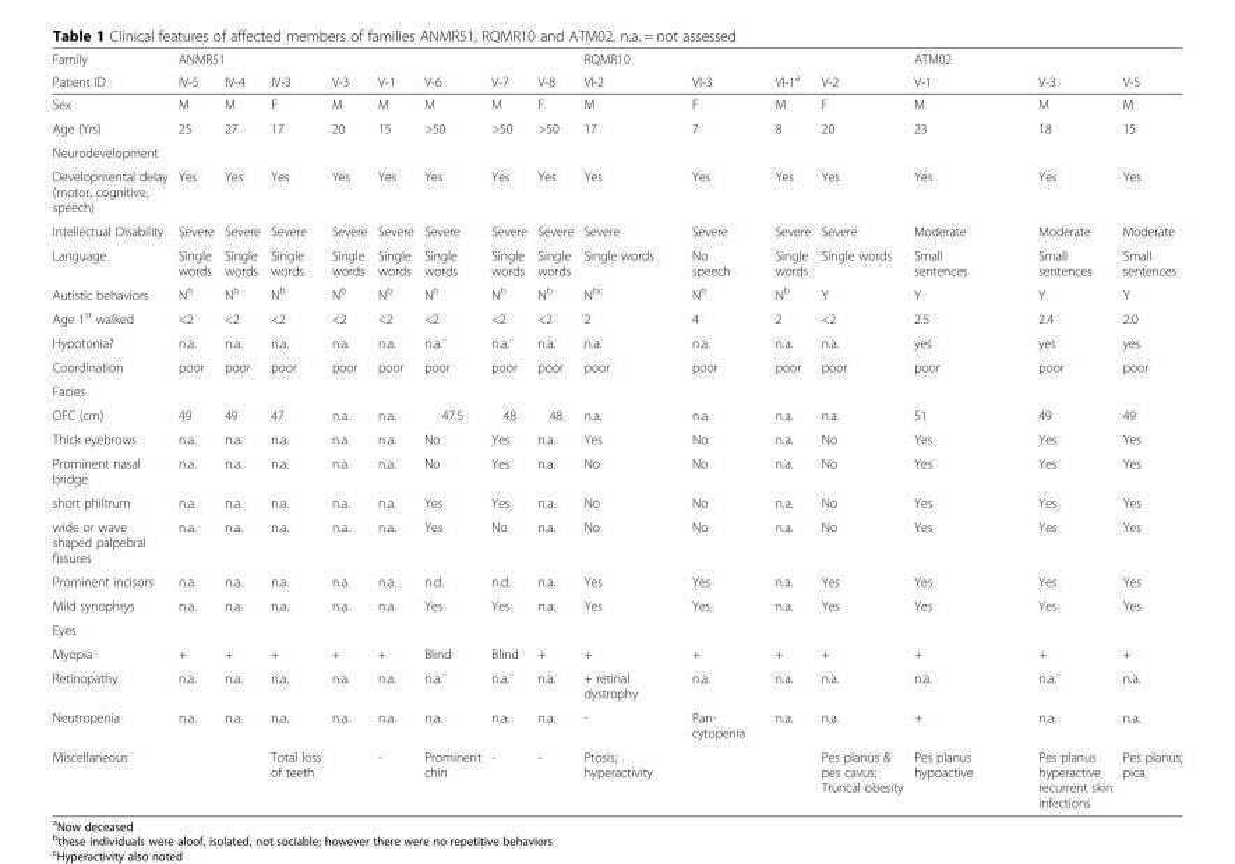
<table><thead><tr><td rowspan="2">Family Patient ID</td><td colspan="8">ANMR51</td><td colspan="4">RQMR10</td><td colspan="3">ATM02</td></tr><tr><td>IV-5</td><td>IV-4</td><td>IV-3</td><td>V-3</td><td>V-1</td><td>V-6</td><td>V-7</td><td>V-8</td><td>VI-2</td><td>VI-3</td><td>VI-1<sup>a</sup></td><td>V-2</td><td>V-1</td><td>V-3</td><td>V-5</td></tr></thead><tbody><tr><td>Sex</td><td>M</td><td>M</td><td>F</td><td>M</td><td>M</td><td>M</td><td>M</td><td>F</td><td>M</td><td>F</td><td>M</td><td>F</td><td>M</td><td>M</td><td>M</td></tr><tr><td>Age (Yrs)</td><td>25</td><td>27</td><td>17</td><td>20</td><td>15</td><td>&gt;50</td><td>&gt;50</td><td>&gt;50</td><td>17</td><td>7</td><td>8</td><td>20</td><td>23</td><td>18</td><td>15</td></tr><tr><td colspan="16">Neurodevelopment</td></tr><tr><td>Developmental delay (motor, cognitive, speech)</td><td>Yes</td><td>Yes</td><td>Yes</td><td>Yes</td><td>Yes</td><td>Yes</td><td>Yes</td><td>Yes</td><td>Yes</td><td>Yes</td><td>Yes</td><td>Yes</td><td>Yes</td><td>Yes</td><td>Yes</td></tr><tr><td>Intellectual Disability</td><td>Severe</td><td>Severe</td><td>Severe</td><td>Severe</td><td>Severe</td><td>Severe</td><td>Severe</td><td>Severe</td><td>Severe</td><td>Severe</td><td>Severe</td><td>Severe</td><td>Moderate</td><td>Moderate</td><td>Moderate</td></tr><tr><td>Language</td><td>Single words</td><td>Single words</td><td>Single words</td><td>Single words</td><td>Single words</td><td>Single words</td><td>Single words</td><td>Single words</td><td>Single words</td><td>No speech</td><td>Single words</td><td>Single words</td><td>Small sentences</td><td>Small sentences</td><td>Small sentences</td></tr><tr><td>Autistic behaviors</td><td>N<sup>b</sup></td><td>N<sup>b</sup></td><td>N<sup>b</sup></td><td>N<sup>b</sup></td><td>N<sup>b</sup></td><td>N<sup>b</sup></td><td>N<sup>b</sup></td><td>N<sup>b</sup></td><td>N<sup>bc</sup></td><td>N<sup>b</sup></td><td>N<sup>b</sup></td><td>Y</td><td>Y</td><td>Y</td><td>Y</td></tr><tr><td>Age 1<sup>st</sup> walked</td><td>&lt;2</td><td>&lt;2</td><td>&lt;2</td><td>&lt;2</td><td>&lt;2</td><td>&lt;2</td><td>&lt;2</td><td>&lt;2</td><td>2</td><td>4</td><td>2</td><td>&lt;2</td><td>2.5</td><td>2.4</td><td>2.0</td></tr><tr><td>Hypotonia?</td><td>n.a.</td><td>n.a.</td><td>n.a.</td><td>n.a.</td><td>n.a.</td><td>n.a.</td><td>n.a.</td><td>n.a.</td><td>n.a.</td><td>n.a.</td><td>n.a.</td><td>n.a.</td><td>yes</td><td>yes</td><td>yes</td></tr><tr><td>Coordination</td><td>poor</td><td>poor</td><td>poor</td><td>poor</td><td>poor</td><td>poor</td><td>poor</td><td>poor</td><td>poor</td><td>poor</td><td>poor</td><td>poor</td><td>poor</td><td>poor</td><td>poor</td></tr><tr><td colspan="16">Facies</td></tr><tr><td>OFC (cm)</td><td>49</td><td>49</td><td>47</td><td>n.a.</td><td>n.a.</td><td>47.5</td><td>48</td><td>48</td><td>n.a.</td><td>n.a.</td><td>n.a.</td><td>n.a.</td><td>51</td><td>49</td><td>49</td></tr><tr><td>Thick eyebrows</td><td>n.a.</td><td>n.a.</td><td>n.a.</td><td>n.a.</td><td>n.a.</td><td>No</td><td>Yes</td><td>n.a.</td><td>Yes</td><td>No</td><td>n.a.</td><td>No</td><td>Yes</td><td>Yes</td><td>Yes</td></tr><tr><td>Prominent nasal bridge</td><td>n.a.</td><td>n.a.</td><td>n.a.</td><td>n.a.</td><td>n.a.</td><td>No</td><td>Yes</td><td>n.a.</td><td>No</td><td>No</td><td>n.a.</td><td>No</td><td>Yes</td><td>Yes</td><td>Yes</td></tr><tr><td>short philtrum</td><td>n.a.</td><td>n.a.</td><td>n.a.</td><td>n.a.</td><td>n.a.</td><td>Yes</td><td>Yes</td><td>n.a.</td><td>No</td><td>No</td><td>n.a.</td><td>No</td><td>Yes</td><td>Yes</td><td>Yes</td></tr><tr><td>wide or wave shaped palpebral fissures</td><td>n.a.</td><td>n.a.</td><td>n.a.</td><td>n.a.</td><td>n.a.</td><td>Yes</td><td>No</td><td>n.a.</td><td>No</td><td>No</td><td>n.a.</td><td>No</td><td>Yes</td><td>Yes</td><td>Yes</td></tr><tr><td>Prominent incisors</td><td>n.a.</td><td>n.a.</td><td>n.a.</td><td>n.a.</td><td>n.a.</td><td>n.d.</td><td>n.d.</td><td>n.a.</td><td>Yes</td><td>Yes</td><td>n.a.</td><td>Yes</td><td>Yes</td><td>Yes</td><td>Yes</td></tr><tr><td>Mild synophrys</td><td>n.a.</td><td>n.a.</td><td>n.a.</td><td>n.a.</td><td>n.a.</td><td>Yes</td><td>Yes</td><td>n.a.</td><td>Yes</td><td>Yes</td><td>n.a.</td><td>Yes</td><td>Yes</td><td>Yes</td><td>Yes</td></tr><tr><td colspan="16">Eyes</td></tr><tr><td>Myopia</td><td>+</td><td>+</td><td>+</td><td>+</td><td>+</td><td>Blind</td><td>Blind</td><td>+</td><td>+</td><td>+</td><td>+</td><td>+</td><td>+</td><td>+</td><td>+</td></tr><tr><td>Retinopathy</td><td>n.a.</td><td>n.a.</td><td>n.a.</td><td>n.a.</td><td>n.a.</td><td>n.a.</td><td>n.a.</td><td>n.a.</td><td>+ retinal dystrophy</td><td>n.a.</td><td>n.a.</td><td>n.a.</td><td>n.a.</td><td>n.a.</td><td>n.a.</td></tr><tr><td>Neutropenia</td><td>n.a.</td><td>n.a.</td><td>n.a.</td><td>n.a.</td><td>n.a.</td><td>n.a.</td><td>n.a.</td><td>n.a.</td><td>-</td><td>Pan- cytopenia</td><td>n.a.</td><td>n.a.</td><td>+</td><td>n.a.</td><td>n.a.</td></tr><tr><td>Miscellaneous</td><td></td><td></td><td>Total loss of teeth</td><td></td><td>-</td><td>Prominent chin</td><td>-</td><td>-</td><td>Ptosis; hyperactivity</td><td></td><td></td><td>Pes planus &amp; pes cavus; Truncal obesity</td><td>Pes planus hypoactive</td><td>Pes planus hyperactive recurrent skin infections</td><td>Pes planus; pica</td></tr></tbody></table>